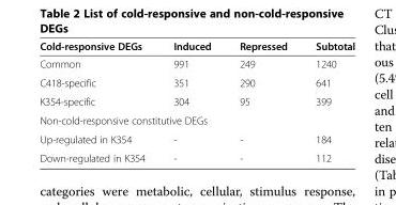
<table><thead><tr><td>Cold-responsive DEGs</td><td>Induced</td><td>Repressed</td><td>Subtotal</td></tr></thead><tbody><tr><td>Common</td><td>991</td><td>249</td><td>1240</td></tr><tr><td>C418-specific</td><td>351</td><td>290</td><td>641</td></tr><tr><td>K354-specific</td><td>304</td><td>95</td><td>399</td></tr><tr><td colspan="4">Non-cold-responsive constitutive DEGs</td></tr><tr><td>Up-regulated in K354</td><td>-</td><td>-</td><td>184</td></tr><tr><td>Down-regulated in K354</td><td>-</td><td>-</td><td>112</td></tr></tbody></table>